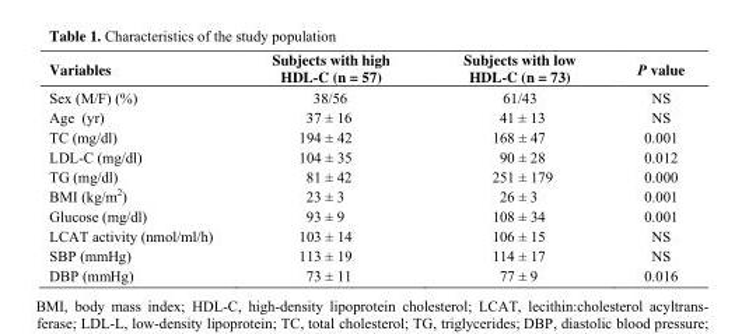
<table><thead><tr><td>Variables</td><td>Subjects with high HDL-C (n = 57)</td><td>Subjects with low HDL-C (n = 73)</td><td>P value</td></tr></thead><tbody><tr><td>Sex (M/F) (%)</td><td>38/56</td><td>61/43</td><td>NS</td></tr><tr><td>Age (yr)</td><td>37 ± 16</td><td>41 ± 13</td><td>NS</td></tr><tr><td>TC (mg/dl)</td><td>194 ± 42</td><td>168 ± 47</td><td>0.001</td></tr><tr><td>LDL-C (mg/dl)</td><td>104 ± 35</td><td>90 ± 28</td><td>0.012</td></tr><tr><td>TG (mg/dl)</td><td>81 ± 42</td><td>251 ± 179</td><td>0.000</td></tr><tr><td>BMI (kg/m<sup>2</sup>)</td><td>23 ± 3</td><td>26 ± 3</td><td>0.001</td></tr><tr><td>Glucose (mg/dl)</td><td>93 ± 9</td><td>108 ± 34</td><td>0.001</td></tr><tr><td>LCAT activity (nmol/ml/h)</td><td>103 ± 14</td><td>106 ± 15</td><td>NS</td></tr><tr><td>SBP (mmHg)</td><td>113 ± 19</td><td>114 ± 17</td><td>NS</td></tr><tr><td>DBP (mmHg)</td><td>73 ± 11</td><td>77 ± 9</td><td>0.016</td></tr></tbody></table>